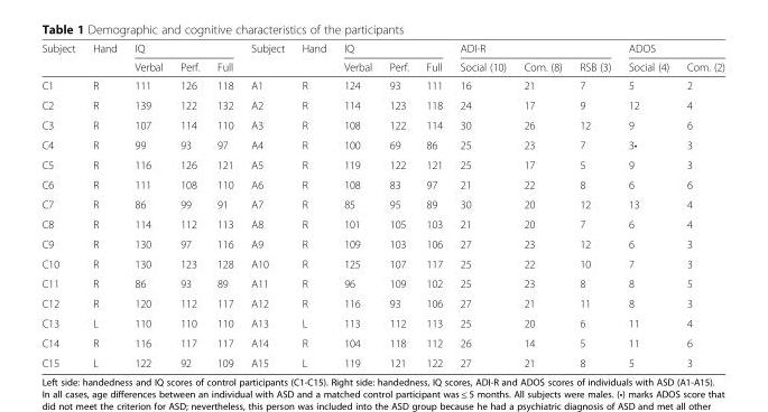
<table><thead><tr><td rowspan="2">Subject</td><td rowspan="2">Hand</td><td colspan="3">IQ</td><td rowspan="2">Subject</td><td rowspan="2">Hand</td><td colspan="3">IQ</td><td colspan="3">ADI-R</td><td colspan="2">ADOS</td></tr><tr><td>Verbal</td><td>Perf.</td><td>Full</td><td>Verbal</td><td>Perf.</td><td>Full</td><td>Social (10)</td><td>Com. (8)</td><td>RSB (3)</td><td>Social (4)</td><td>Com. (2)</td></tr></thead><tbody><tr><td>C1</td><td>R</td><td>111</td><td>126</td><td>118</td><td>A1</td><td>R</td><td>124</td><td>93</td><td>111</td><td>16</td><td>21</td><td>7</td><td>5</td><td>2</td></tr><tr><td>C2</td><td>R</td><td>139</td><td>122</td><td>132</td><td>A2</td><td>R</td><td>114</td><td>123</td><td>118</td><td>24</td><td>17</td><td>9</td><td>12</td><td>4</td></tr><tr><td>C3</td><td>R</td><td>107</td><td>114</td><td>110</td><td>A3</td><td>R</td><td>108</td><td>122</td><td>114</td><td>30</td><td>26</td><td>12</td><td>9</td><td>6</td></tr><tr><td>C4</td><td>R</td><td>99</td><td>93</td><td>97</td><td>A4</td><td>R</td><td>100</td><td>69</td><td>86</td><td>25</td><td>23</td><td>7</td><td>3•</td><td>3</td></tr><tr><td>C5</td><td>R</td><td>116</td><td>126</td><td>121</td><td>A5</td><td>R</td><td>119</td><td>122</td><td>121</td><td>25</td><td>17</td><td>5</td><td>9</td><td>3</td></tr><tr><td>C6</td><td>R</td><td>111</td><td>108</td><td>110</td><td>A6</td><td>R</td><td>108</td><td>83</td><td>97</td><td>21</td><td>22</td><td>8</td><td>6</td><td>6</td></tr><tr><td>C7</td><td>R</td><td>86</td><td>99</td><td>91</td><td>A7</td><td>R</td><td>85</td><td>95</td><td>89</td><td>30</td><td>20</td><td>12</td><td>13</td><td>4</td></tr><tr><td>C8</td><td>R</td><td>114</td><td>112</td><td>113</td><td>A8</td><td>R</td><td>101</td><td>105</td><td>103</td><td>21</td><td>20</td><td>7</td><td>6</td><td>4</td></tr><tr><td>C9</td><td>R</td><td>130</td><td>97</td><td>116</td><td>A9</td><td>R</td><td>109</td><td>103</td><td>106</td><td>27</td><td>23</td><td>12</td><td>6</td><td>3</td></tr><tr><td>C10</td><td>R</td><td>130</td><td>123</td><td>128</td><td>A10</td><td>R</td><td>125</td><td>107</td><td>117</td><td>25</td><td>22</td><td>10</td><td>7</td><td>3</td></tr><tr><td>C11</td><td>R</td><td>86</td><td>93</td><td>89</td><td>A11</td><td>R</td><td>96</td><td>109</td><td>102</td><td>25</td><td>23</td><td>8</td><td>8</td><td>5</td></tr><tr><td>C12</td><td>R</td><td>120</td><td>112</td><td>117</td><td>A12</td><td>R</td><td>116</td><td>93</td><td>106</td><td>27</td><td>21</td><td>11</td><td>8</td><td>3</td></tr><tr><td>C13</td><td>L</td><td>110</td><td>110</td><td>110</td><td>A13</td><td>L</td><td>113</td><td>112</td><td>113</td><td>25</td><td>20</td><td>6</td><td>11</td><td>4</td></tr><tr><td>C14</td><td>R</td><td>116</td><td>117</td><td>117</td><td>A14</td><td>R</td><td>104</td><td>118</td><td>112</td><td>26</td><td>14</td><td>5</td><td>11</td><td>6</td></tr><tr><td>C15</td><td>L</td><td>122</td><td>92</td><td>109</td><td>A15</td><td>L</td><td>119</td><td>121</td><td>122</td><td>27</td><td>21</td><td>8</td><td>5</td><td>3</td></tr></tbody></table>